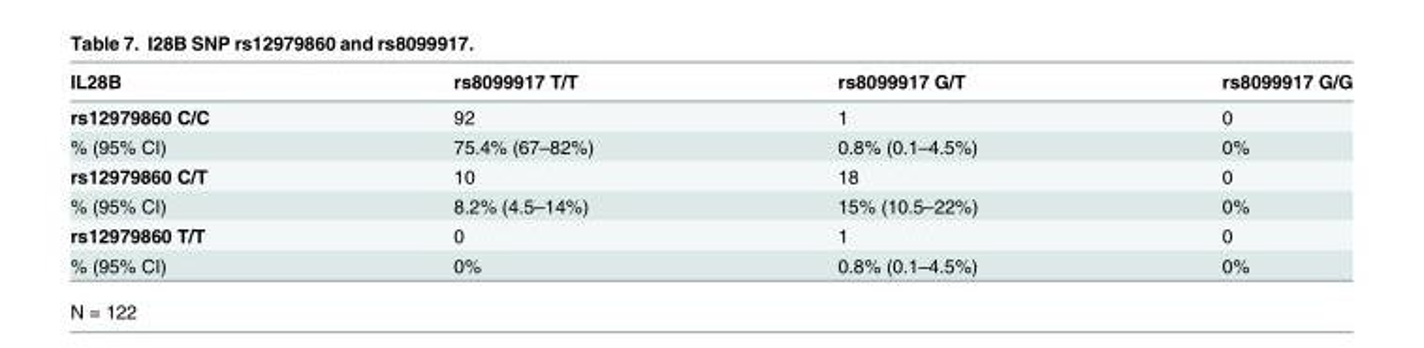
<table><thead><tr><td>IL28B</td><td>rs8099917 T/T</td><td>rs8099917 G/T</td><td>rs8099917 G/G</td></tr></thead><tbody><tr><td>rs12979860 C/C</td><td>92</td><td>1</td><td>0</td></tr><tr><td>% (95% CI)</td><td>75.4% (67–82%)</td><td>0.8% (0.1–4.5%)</td><td>0%</td></tr><tr><td>rs12979860 C/T</td><td>10</td><td>18</td><td>0</td></tr><tr><td>% (95% CI)</td><td>8.2% (4.5–14%)</td><td>15% (10.5–22%)</td><td>0%</td></tr><tr><td>rs12979860 T/T</td><td>0</td><td>1</td><td>0</td></tr><tr><td>% (95% CI)</td><td>0%</td><td>0.8% (0.1–4.5%)</td><td>0%</td></tr></tbody></table>